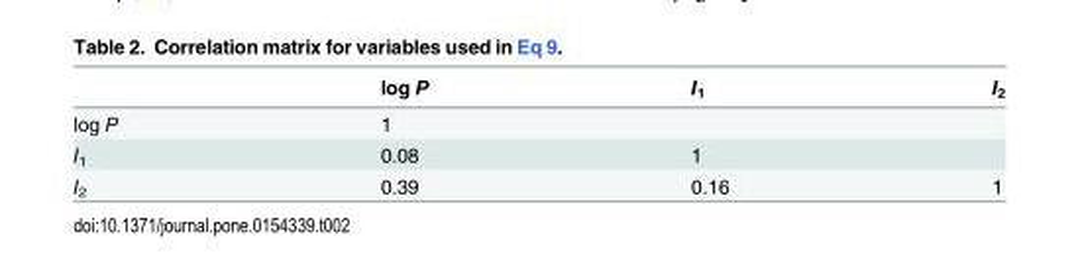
<table><thead><tr><td></td><td>log P</td><td>I<sub>1</sub></td><td>I<sub>2</sub></td></tr></thead><tbody><tr><td>log P</td><td>1</td><td></td><td></td></tr><tr><td>I<sub>1</sub></td><td>0.08</td><td>1</td><td></td></tr><tr><td>I<sub>2</sub></td><td>0.39</td><td>0.16</td><td>1</td></tr></tbody></table>